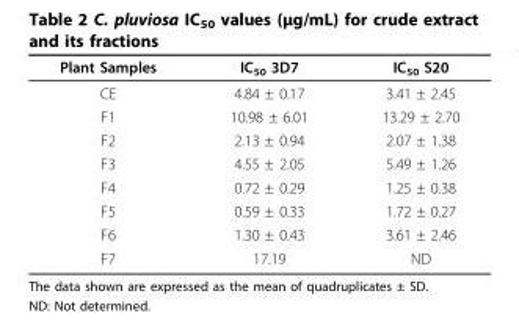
<table><thead><tr><td>Plant Samples</td><td>IC<sub>50</sub> 3D7</td><td>IC<sub>50</sub> S20</td></tr></thead><tbody><tr><td>CE</td><td>4.84 ± 0.17</td><td>3.41 ± 2.45</td></tr><tr><td>F1</td><td>10.98 ± 6.01</td><td>13.29 ± 2.70</td></tr><tr><td>F2</td><td>2.13 ± 0.94</td><td>2.07 ± 1.38</td></tr><tr><td>F3</td><td>4.55 ± 2.05</td><td>5.49 ± 1.26</td></tr><tr><td>F4</td><td>0.72 ± 0.29</td><td>1.25 ± 0.38</td></tr><tr><td>F5</td><td>0.59 ± 0.33</td><td>1.72 ± 0.27</td></tr><tr><td>F6</td><td>1.30 ± 0.43</td><td>3.61 ± 2.46</td></tr><tr><td>F7</td><td>17.19</td><td>ND</td></tr></tbody></table>